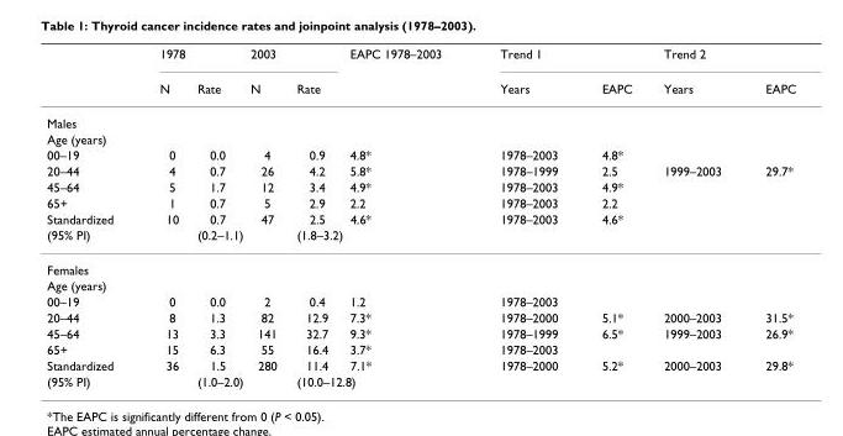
<table><thead><tr><td rowspan="2"></td><td colspan="2">1978</td><td colspan="2">2003</td><td rowspan="2">EAPC 1978–2003</td><td colspan="2">Trend 1</td><td colspan="2">Trend 2</td></tr><tr><td>N</td><td>Rate</td><td>N</td><td>Rate</td><td>Years</td><td>EAPC</td><td>Years</td><td>EAPC</td></tr></thead><tbody><tr><td colspan="10">Males</td></tr><tr><td colspan="10">Age (years)</td></tr><tr><td>00–19</td><td>0</td><td>0.0</td><td>4</td><td>0.9</td><td>4.8*</td><td>1978–2003</td><td>4.8*</td><td></td><td></td></tr><tr><td>20–44</td><td>4</td><td>0.7</td><td>26</td><td>4.2</td><td>5.8*</td><td>1978–1999</td><td>2.5</td><td>1999–2003</td><td>29.7*</td></tr><tr><td>45–64</td><td>5</td><td>1.7</td><td>12</td><td>3.4</td><td>4.9*</td><td>1978–2003</td><td>4.9*</td><td></td><td></td></tr><tr><td>65+</td><td>1</td><td>0.7</td><td>5</td><td>2.9</td><td>2.2</td><td>1978–2003</td><td>2.2</td><td></td><td></td></tr><tr><td>Standardized</td><td>10</td><td>0.7</td><td>47</td><td>2.5</td><td>4.6*</td><td>1978–2003</td><td>4.6*</td><td></td><td></td></tr><tr><td>(95% PI)</td><td></td><td colspan="2">(0.2–1.1)</td><td colspan="2">(1.8–3.2)</td><td></td><td></td><td></td><td></td></tr><tr><td colspan="10">Females</td></tr><tr><td colspan="10">Age (years)</td></tr><tr><td>00–19</td><td>0</td><td>0.0</td><td>2</td><td>0.4</td><td>1.2</td><td>1978–2003</td><td></td><td></td><td></td></tr><tr><td>20–44</td><td>8</td><td>1.3</td><td>82</td><td>12.9</td><td>7.3*</td><td>1978–2000</td><td>5.1*</td><td>2000–2003</td><td>31.5*</td></tr><tr><td>45–64</td><td>13</td><td>3.3</td><td>141</td><td>32.7</td><td>9.3*</td><td>1978–1999</td><td>6.5*</td><td>1999–2003</td><td>26.9*</td></tr><tr><td>65+</td><td>15</td><td>6.3</td><td>55</td><td>16.4</td><td>3.7*</td><td>1978–2003</td><td></td><td></td><td></td></tr><tr><td>Standardized</td><td>36</td><td>1.5</td><td>280</td><td>11.4</td><td>7.1*</td><td>1978–2000</td><td>5.2*</td><td>2000–2003</td><td>29.8*</td></tr><tr><td>(95% PI)</td><td></td><td colspan="2">(1.0–2.0)</td><td colspan="2">(10.0–12.8)</td><td></td><td></td><td></td><td></td></tr></tbody></table>